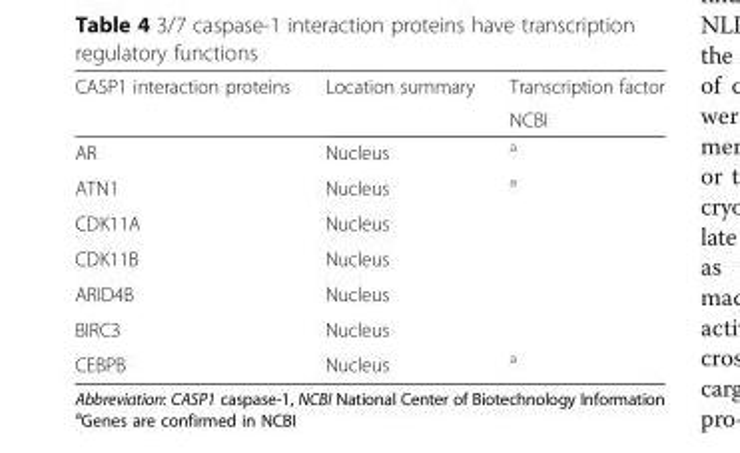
<table><thead><tr><td rowspan="2">CASP1 interaction proteins</td><td rowspan="2">Location summary</td><td rowspan="2">Transcription factor NCBI</td></tr><tr></tr></thead><tbody><tr><td>AR</td><td>Nucleus</td><td><sup>a</sup></td></tr><tr><td>ATN1</td><td>Nucleus</td><td><sup>a</sup></td></tr><tr><td>CDK11A</td><td>Nucleus</td><td></td></tr><tr><td>CDK11B</td><td>Nucleus</td><td></td></tr><tr><td>ARID4B</td><td>Nucleus</td><td></td></tr><tr><td>BIRC3</td><td>Nucleus</td><td></td></tr><tr><td>CEBPB</td><td>Nucleus</td><td><sup>a</sup></td></tr></tbody></table>